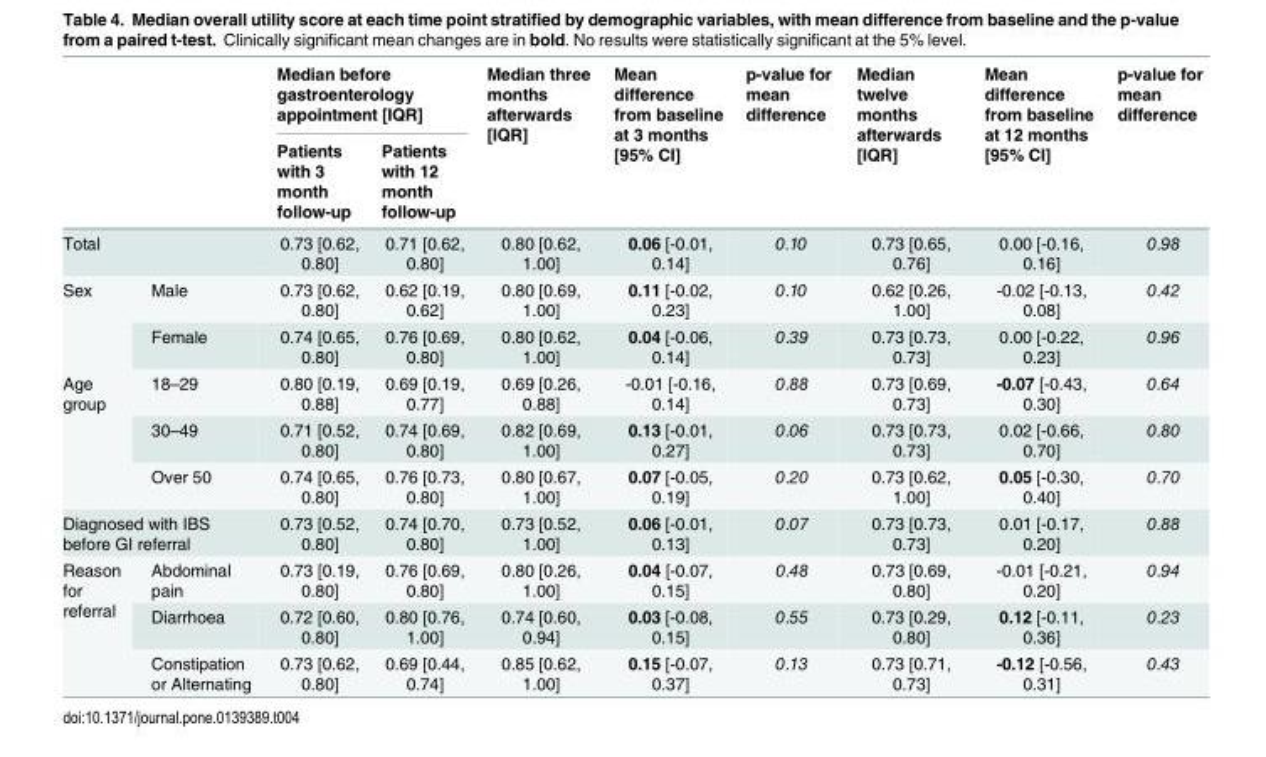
<table><thead><tr><td rowspan="2"></td><td rowspan="2"></td><td colspan="2">Median before gastroenterology appointment [IQR]</td><td rowspan="2">Median three months afterwards [IQR]</td><td rowspan="2">Mean difference from baseline at 3 months [95% CI]</td><td rowspan="2">p-value for mean difference</td><td rowspan="2">Median twelve months afterwards [IQR]</td><td rowspan="2">Mean difference from baseline at 12 months [95% CI]</td><td rowspan="2">p-value for mean difference</td></tr><tr><td>Patients with 3 month follow-up</td><td>Patients with 12 month follow-up</td></tr></thead><tbody><tr><td colspan="2">Total</td><td>0.73 [0.62, 0.80]</td><td>0.71 [0.62, 0.80]</td><td>0.80 [0.62, 1.00]</td><td>0.06 [-0.01, 0.14]</td><td>0.10</td><td>0.73 [0.65, 0.76]</td><td>0.00 [-0.16, 0.16]</td><td>0.98</td></tr><tr><td rowspan="2">Sex</td><td>Male</td><td>0.73 [0.62, 0.80]</td><td>0.62 [0.19, 0.62]</td><td>0.80 [0.69, 1.00]</td><td>0.11 [-0.02, 0.23]</td><td>0.10</td><td>0.62 [0.26, 1.00]</td><td>-0.02 [-0.13, 0.08]</td><td>0.42</td></tr><tr><td>Female</td><td>0.74 [0.65, 0.80]</td><td>0.76 [0.69, 0.80]</td><td>0.80 [0.62, 1.00]</td><td>0.04 [-0.06, 0.14]</td><td>0.39</td><td>0.73 [0.73, 0.73]</td><td>0.00 [-0.22, 0.23]</td><td>0.96</td></tr><tr><td rowspan="3">Age group</td><td>18–29</td><td>0.80 [0.19, 0.88]</td><td>0.69 [0.19, 0.77]</td><td>0.69 [0.26, 0.88]</td><td>-0.01 [-0.16, 0.14]</td><td>0.88</td><td>0.73 [0.69, 0.73]</td><td>-0.07 [-0.43, 0.30]</td><td>0.64</td></tr><tr><td>30–49</td><td>0.71 [0.52, 0.80]</td><td>0.74 [0.69, 0.80]</td><td>0.82 [0.69, 1.00]</td><td>0.13 [-0.01, 0.27]</td><td>0.06</td><td>0.73 [0.73, 0.73]</td><td>0.02 [-0.66, 0.70]</td><td>0.80</td></tr><tr><td>Over 50</td><td>0.74 [0.65, 0.80]</td><td>0.76 [0.73, 0.80]</td><td>0.80 [0.67, 1.00]</td><td>0.07 [-0.05, 0.19]</td><td>0.20</td><td>0.73 [0.62, 1.00]</td><td>0.05 [-0.30, 0.40]</td><td>0.70</td></tr><tr><td colspan="2">Diagnosed with IBS before GI referral</td><td>0.73 [0.52, 0.80]</td><td>0.74 [0.70, 0.80]</td><td>0.73 [0.52, 1.00]</td><td>0.06 [-0.01, 0.13]</td><td>0.07</td><td>0.73 [0.73, 0.73]</td><td>0.01 [-0.17, 0.20]</td><td>0.88</td></tr><tr><td rowspan="3">Reason for referral</td><td>Abdominal pain</td><td>0.73 [0.19, 0.80]</td><td>0.76 [0.69, 0.80]</td><td>0.80 [0.26, 1.00]</td><td>0.04 [-0.07, 0.15]</td><td>0.48</td><td>0.73 [0.69, 0.80]</td><td>-0.01 [-0.21, 0.20]</td><td>0.94</td></tr><tr><td>Diarrhoea</td><td>0.72 [0.60, 0.80]</td><td>0.80 [0.76, 1.00]</td><td>0.74 [0.60, 0.94]</td><td>0.03 [-0.08, 0.15]</td><td>0.55</td><td>0.73 [0.29, 0.80]</td><td>0.12 [-0.11, 0.36]</td><td>0.23</td></tr><tr><td>Constipation or Alternating</td><td>0.73 [0.62, 0.80]</td><td>0.69 [0.44, 0.74]</td><td>0.85 [0.62, 1.00]</td><td>0.15 [-0.07, 0.37]</td><td>0.13</td><td>0.73 [0.71, 0.73]</td><td>-0.12 [-0.56, 0.31]</td><td>0.43</td></tr></tbody></table>